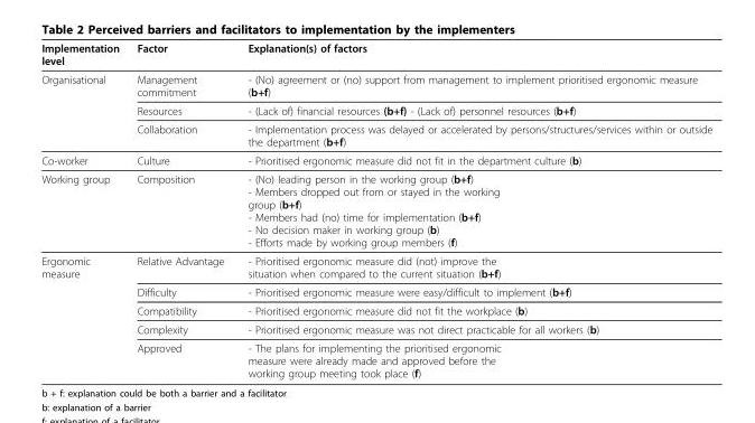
<table><thead><tr><td>Implementation level</td><td>Factor</td><td>Explanation(s) of factors</td></tr></thead><tbody><tr><td rowspan="3">Organisational</td><td>Management commitment</td><td>- (No) agreement or (no) support from management to implement prioritised ergonomic measure (b+f)</td></tr><tr><td>Resources</td><td>- (Lack of) financial resources (b+f) - (Lack of) personnel resources (b+f)</td></tr><tr><td>Collaboration</td><td>- Implementation process was delayed or accelerated by persons/structures/services within or outside the department (b+f)</td></tr><tr><td>Co-worker</td><td>Culture</td><td>- Prioritised ergonomic measure did not fit in the department culture (b)</td></tr><tr><td>Working group</td><td>Composition</td><td>- (No) leading person in the working group (b+f) - Members dropped out from or stayed in the working group (b+f) - Members had (no) time for implementation (b+f) - No decision maker in working group (b) - Efforts made by working group members (f)</td></tr><tr><td rowspan="5">Ergonomic measure</td><td>Relative Advantage</td><td>- Prioritised ergonomic measure did (not) improve the situation when compared to the current situation (b+f)</td></tr><tr><td>Difficulty</td><td>- Prioritised ergonomic measure were easy/difficult to implement (b+f)</td></tr><tr><td>Compatibility</td><td>- Prioritised ergonomic measure did not fit the workplace (b)</td></tr><tr><td>Complexity</td><td>- Prioritised ergonomic measure was not direct practicable for all workers (b)</td></tr><tr><td>Approved</td><td>- The plans for implementing the prioritised ergonomic measure were already made and approved before the working group meeting took place (f)</td></tr></tbody></table>